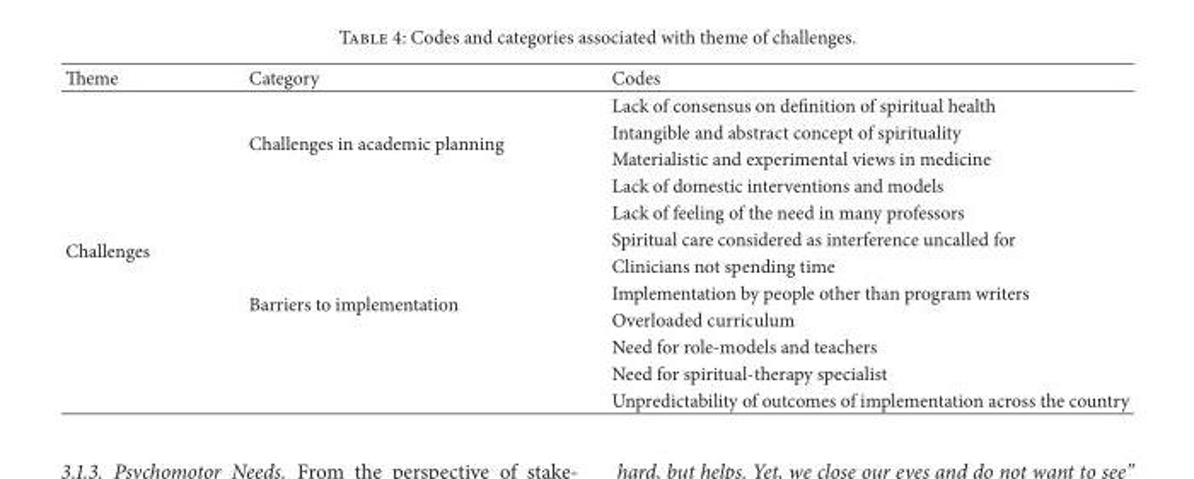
<table><thead><tr><td>Theme</td><td>Category</td><td>Codes</td></tr></thead><tbody><tr><td rowspan="12">Challenges</td><td rowspan="4">Challenges in academic planning</td><td>Lack of consensus on definition of spiritual health</td></tr><tr><td>Intangible and abstract concept of spirituality</td></tr><tr><td>Materialistic and experimental views in medicine</td></tr><tr><td>Lack of domestic interventions and models</td></tr><tr><td rowspan="8">Barriers to implementation</td><td>Lack of feeling of the need in many professors</td></tr><tr><td>Spiritual care considered as interference uncalled for</td></tr><tr><td>Clinicians not spending time</td></tr><tr><td>Implementation by people other than program writers</td></tr><tr><td>Overloaded curriculum</td></tr><tr><td>Need for role-models and teachers</td></tr><tr><td>Need for spiritual-therapy specialist</td></tr><tr><td>Unpredictability of outcomes of implementation across the country</td></tr></tbody></table>